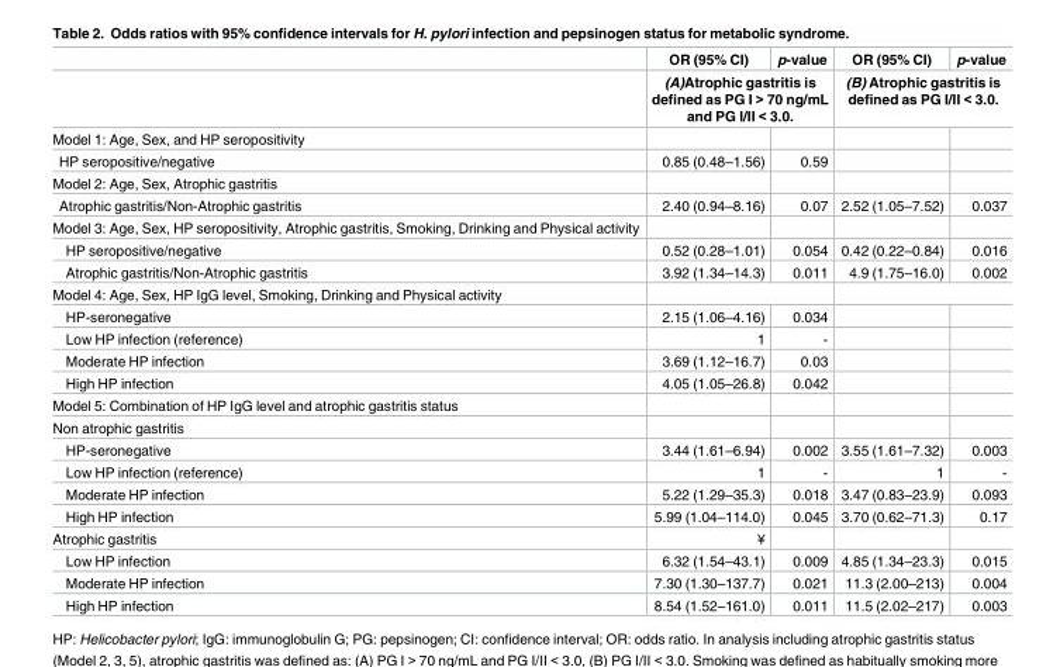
<table><thead><tr><td rowspan="2"></td><td>OR (95% CI)</td><td>p-value</td><td>OR (95% CI)</td><td>p-value</td></tr><tr><td colspan="2">(A)Atrophic gastritis is defined as PG I &gt; 70 ng/mL and PG I/II &lt; 3.0.</td><td colspan="2">(B) Atrophic gastritis is defined as PG I/II &lt; 3.0.</td></tr></thead><tbody><tr><td colspan="5">Model 1: Age, Sex, and HP seropositivity</td></tr><tr><td>HP seropositive/negative</td><td>0.85 (0.48–1.56)</td><td>0.59</td><td></td><td></td></tr><tr><td colspan="5">Model 2: Age, Sex, Atrophic gastritis</td></tr><tr><td>Atrophic gastritis/Non-Atrophic gastritis</td><td>2.40 (0.94–8.16)</td><td>0.07</td><td>2.52 (1.05–7.52)</td><td>0.037</td></tr><tr><td colspan="5">Model 3: Age, Sex, HP seropositivity, Atrophic gastritis, Smoking, Drinking and Physical activity</td></tr><tr><td>HP seropositive/negative</td><td>0.52 (0.28–1.01)</td><td>0.054</td><td>0.42 (0.22–0.84)</td><td>0.016</td></tr><tr><td>Atrophic gastritis/Non-Atrophic gastritis</td><td>3.92 (1.34–14.3)</td><td>0.011</td><td>4.9 (1.75–16.0)</td><td>0.002</td></tr><tr><td colspan="5">Model 4: Age, Sex, HP IgG level, Smoking, Drinking and Physical activity</td></tr><tr><td>HP-seronegative</td><td>2.15 (1.06–4.16)</td><td>0.034</td><td></td><td></td></tr><tr><td>Low HP infection (reference)</td><td>1</td><td>-</td><td></td><td></td></tr><tr><td>Moderate HP infection</td><td>3.69 (1.12–16.7)</td><td>0.03</td><td></td><td></td></tr><tr><td>High HP infection</td><td>4.05 (1.05–26.8)</td><td>0.042</td><td></td><td></td></tr><tr><td colspan="5">Model 5: Combination of HP IgG level and atrophic gastritis status</td></tr><tr><td colspan="5">Non atrophic gastritis</td></tr><tr><td>HP-seronegative</td><td>3.44 (1.61–6.94)</td><td>0.002</td><td>3.55 (1.61–7.32)</td><td>0.003</td></tr><tr><td>Low HP infection (reference)</td><td>1</td><td>-</td><td>1</td><td>-</td></tr><tr><td>Moderate HP infection</td><td>5.22 (1.29–35.3)</td><td>0.018</td><td>3.47 (0.83–23.9)</td><td>0.093</td></tr><tr><td>High HP infection</td><td>5.99 (1.04–114.0)</td><td>0.045</td><td>3.70 (0.62–71.3)</td><td>0.17</td></tr><tr><td>Atrophic gastritis</td><td>¥</td><td></td><td></td><td></td></tr><tr><td>Low HP infection</td><td>6.32 (1.54–43.1)</td><td>0.009</td><td>4.85 (1.34–23.3)</td><td>0.015</td></tr><tr><td>Moderate HP infection</td><td>7.30 (1.30–137.7)</td><td>0.021</td><td>11.3 (2.00–213)</td><td>0.004</td></tr><tr><td>High HP infection</td><td>8.54 (1.52–161.0)</td><td>0.011</td><td>11.5 (2.02–217)</td><td>0.003</td></tr></tbody></table>